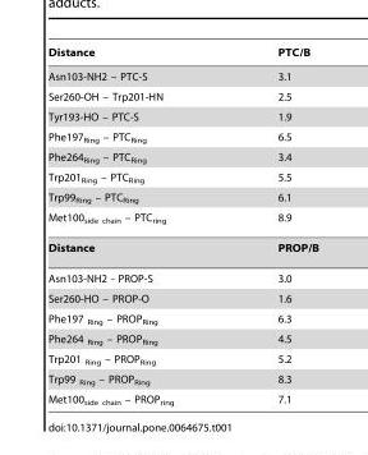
<table><thead><tr><td>Distance</td><td>PTC/B</td></tr></thead><tbody><tr><td>Asn103-NH2 – PTC-S</td><td>3.1</td></tr><tr><td>Ser260-OH – Trp201-HN</td><td>2.5</td></tr><tr><td>Tyr193-HO – PTC-S</td><td>1.9</td></tr><tr><td>Phe197<sub>Ring</sub> – PTC<sub>Ring</sub></td><td>6.5</td></tr><tr><td>Phe264<sub>Ring</sub> – PTC<sub>Ring</sub></td><td>3.4</td></tr><tr><td>Trp201<sub>Ring</sub> – PTC<sub>Ring</sub></td><td>5.5</td></tr><tr><td>Trp99<sub>Ring</sub> – PTC<sub>Ring</sub></td><td>6.1</td></tr><tr><td>Met100<sub>side chain</sub> – PTC<sub>ring</sub></td><td>8.9</td></tr><tr><td>Distance</td><td>PROP/B</td></tr><tr><td>Asn103-NH2 - PROP-S</td><td>3.0</td></tr><tr><td>Ser260-HO – PROP-O</td><td>1.6</td></tr><tr><td>Phe197 <sub>Ring</sub> – PROP<sub>Ring</sub></td><td>6.3</td></tr><tr><td>Phe264 <sub>Ring</sub> – PROP<sub>Ring</sub></td><td>4.5</td></tr><tr><td>Trp201 <sub>Ring</sub> – PROP<sub>Ring</sub></td><td>5.2</td></tr><tr><td>Trp99 <sub>Ring</sub> – PROP<sub>Ring</sub></td><td>8.3</td></tr><tr><td>Met100<sub>side chain</sub> – PROP<sub>ring</sub></td><td>7.1</td></tr></tbody></table>